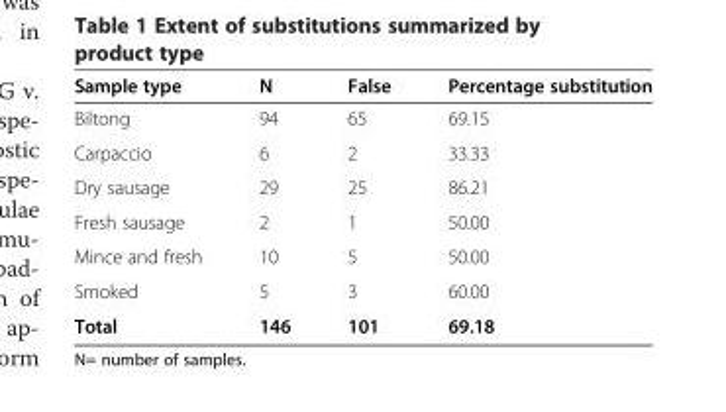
<table><thead><tr><td>Sample type</td><td>N</td><td>False</td><td>Percentage substitution</td></tr></thead><tbody><tr><td>Biltong</td><td>94</td><td>65</td><td>69.15</td></tr><tr><td>Carpaccio</td><td>6</td><td>2</td><td>33.33</td></tr><tr><td>Dry sausage</td><td>29</td><td>25</td><td>86.21</td></tr><tr><td>Fresh sausage</td><td>2</td><td>1</td><td>50.00</td></tr><tr><td>Mince and fresh</td><td>10</td><td>5</td><td>50.00</td></tr><tr><td>Smoked</td><td>5</td><td>3</td><td>60.00</td></tr><tr><td>Total</td><td>146</td><td>101</td><td>69.18</td></tr></tbody></table>